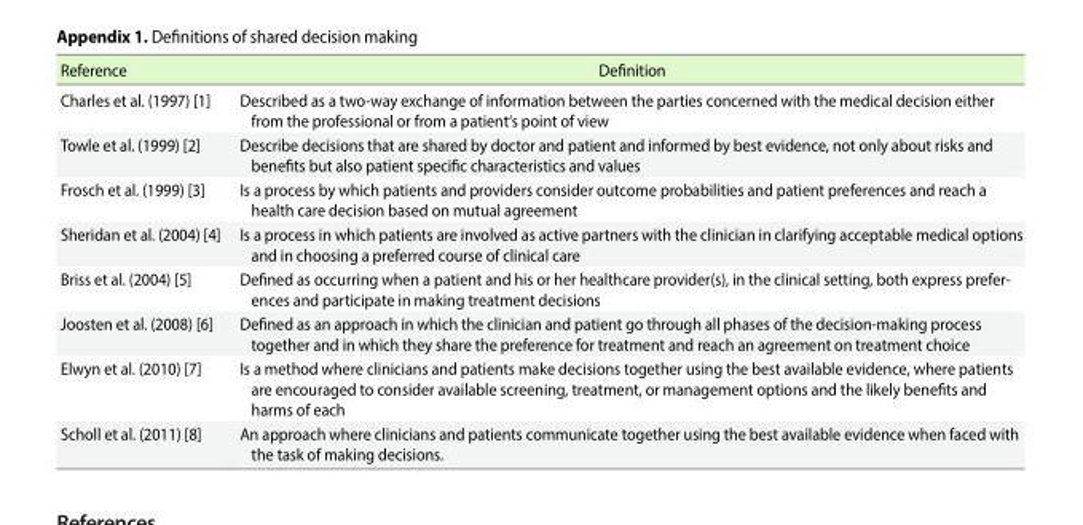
<table><thead><tr><td>Reference</td><td>Definition</td></tr></thead><tbody><tr><td>Charles et al. (1997) [1]</td><td>Described as a two-way exchange of information between the parties concerned with the medical decision either from the professional or from a patient‘s point of view</td></tr><tr><td>Towle et al. (1999) [2]</td><td>Describe decisions that are shared by doctor and patient and informed by best evidence, not only about risks and benefits but also patient specific characteristics and values</td></tr><tr><td>Frosch et al. (1999) [3]</td><td>Is a process by which patients and providers consider outcome probabilities and patient preferences and reach a health care decision based on mutual agreement</td></tr><tr><td>Sheridan et al. (2004) [4]</td><td>Is a process in which patients are involved as active partners with the clinician in clarifying acceptable medical options and in choosing a preferred course of clinical care</td></tr><tr><td>Briss et al. (2004) [5]</td><td>Defined as occurring when a patient and his or her healthcare provider(s), in the clinical setting, both express prefer- ences and participate in making treatment decisions</td></tr><tr><td>Joosten et al. (2008) [6]</td><td>Defined as an approach in which the clinician and patient go through all phases of the decision-making process together and in which they share the preference for treatment and reach an agreement on treatment choice</td></tr><tr><td>Elwyn et al. (2010) [7]</td><td>Is a method where clinicians and patients make decisions together using the best available evidence, where patients are encouraged to consider available screening, treatment, or management options and the likely benefits and harms of each</td></tr><tr><td>Scholl et al. (2011) [8]</td><td>An approach where clinicians and patients communicate together using the best available evidence when faced with the task of making decisions.</td></tr></tbody></table>